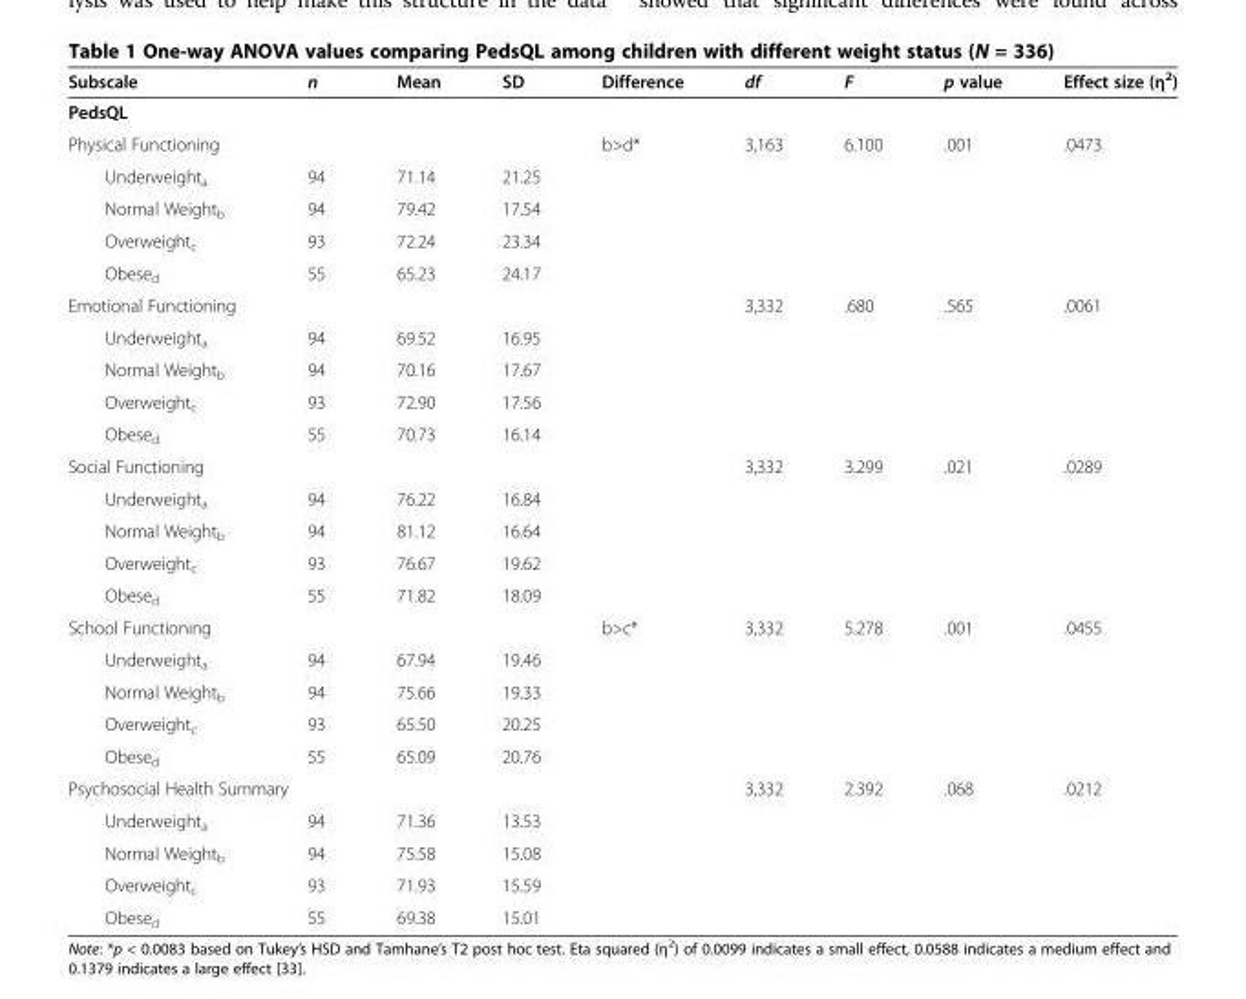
<table><thead><tr><td>Subscale</td><td>n</td><td>Mean</td><td>SD</td><td>Difference</td><td>df</td><td>F</td><td>p value</td><td>Effect size (η<sup>2</sup>)</td></tr></thead><tbody><tr><td colspan="9">PedsQL</td></tr><tr><td>Physical Functioning</td><td></td><td></td><td></td><td>b&gt;d*</td><td>3,163</td><td>6.100</td><td>.001</td><td>.0473</td></tr><tr><td>Underweight<sub>a</sub></td><td>94</td><td>71.14</td><td>21.25</td><td></td><td></td><td></td><td></td><td></td></tr><tr><td>Normal Weight<sub>b</sub></td><td>94</td><td>79.42</td><td>17.54</td><td></td><td></td><td></td><td></td><td></td></tr><tr><td>Overweight<sub>c</sub></td><td>93</td><td>72.24</td><td>23.34</td><td></td><td></td><td></td><td></td><td></td></tr><tr><td>Obese<sub>d</sub></td><td>55</td><td>65.23</td><td>24.17</td><td></td><td></td><td></td><td></td><td></td></tr><tr><td>Emotional Functioning</td><td></td><td></td><td></td><td></td><td>3,332</td><td>.680</td><td>.565</td><td>.0061</td></tr><tr><td>Underweight<sub>a</sub></td><td>94</td><td>69.52</td><td>16.95</td><td></td><td></td><td></td><td></td><td></td></tr><tr><td>Normal Weight<sub>b</sub></td><td>94</td><td>70.16</td><td>17.67</td><td></td><td></td><td></td><td></td><td></td></tr><tr><td>Overweight<sub>c</sub></td><td>93</td><td>72.90</td><td>17.56</td><td></td><td></td><td></td><td></td><td></td></tr><tr><td>Obese<sub>d</sub></td><td>55</td><td>70.73</td><td>16.14</td><td></td><td></td><td></td><td></td><td></td></tr><tr><td>Social Functioning</td><td></td><td></td><td></td><td></td><td>3,332</td><td>3.299</td><td>.021</td><td>.0289</td></tr><tr><td>Underweight<sub>a</sub></td><td>94</td><td>76.22</td><td>16.84</td><td></td><td></td><td></td><td></td><td></td></tr><tr><td>Normal Weight<sub>b</sub></td><td>94</td><td>81.12</td><td>16.64</td><td></td><td></td><td></td><td></td><td></td></tr><tr><td>Overweight<sub>c</sub></td><td>93</td><td>76.67</td><td>19.62</td><td></td><td></td><td></td><td></td><td></td></tr><tr><td>Obese<sub>d</sub></td><td>55</td><td>71.82</td><td>18.09</td><td></td><td></td><td></td><td></td><td></td></tr><tr><td>School Functioning</td><td></td><td></td><td></td><td>b&gt;c*</td><td>3,332</td><td>5.278</td><td>.001</td><td>.0455</td></tr><tr><td>Underweight<sub>a</sub></td><td>94</td><td>67.94</td><td>19.46</td><td></td><td></td><td></td><td></td><td></td></tr><tr><td>Normal Weight<sub>b</sub></td><td>94</td><td>75.66</td><td>19.33</td><td></td><td></td><td></td><td></td><td></td></tr><tr><td>Overweight<sub>c</sub></td><td>93</td><td>65.50</td><td>20.25</td><td></td><td></td><td></td><td></td><td></td></tr><tr><td>Obese<sub>d</sub></td><td>55</td><td>65.09</td><td>20.76</td><td></td><td></td><td></td><td></td><td></td></tr><tr><td>Psychosocial Health Summary</td><td></td><td></td><td></td><td></td><td>3,332</td><td>2.392</td><td>.068</td><td>.0212</td></tr><tr><td>Underweight<sub>a</sub></td><td>94</td><td>71.36</td><td>13.53</td><td></td><td></td><td></td><td></td><td></td></tr><tr><td>Normal Weight<sub>b</sub></td><td>94</td><td>75.58</td><td>15.08</td><td></td><td></td><td></td><td></td><td></td></tr><tr><td>Overweight<sub>c</sub></td><td>93</td><td>71.93</td><td>15.59</td><td></td><td></td><td></td><td></td><td></td></tr><tr><td>Obese<sub>d</sub></td><td>55</td><td>69.38</td><td>15.01</td><td></td><td></td><td></td><td></td><td></td></tr></tbody></table>